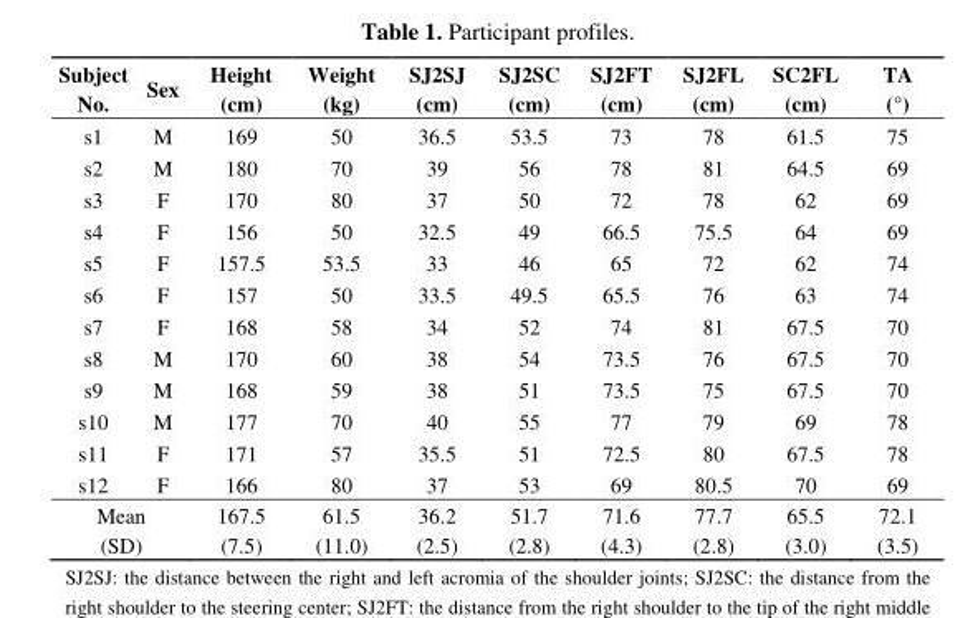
<table><thead><tr><td>Subject No.</td><td>Sex</td><td>Height (cm)</td><td>Weight (kg)</td><td>SJ2SJ (cm)</td><td>SJ2SC (cm)</td><td>SJ2FT (cm)</td><td>SJ2FL (cm)</td><td>SC2FL (cm)</td><td>TA (°)</td></tr></thead><tbody><tr><td>s1</td><td>M</td><td>169</td><td>50</td><td>36.5</td><td>53.5</td><td>73</td><td>78</td><td>61.5</td><td>75</td></tr><tr><td>s2</td><td>M</td><td>180</td><td>70</td><td>39</td><td>56</td><td>78</td><td>81</td><td>64.5</td><td>69</td></tr><tr><td>s3</td><td>F</td><td>170</td><td>80</td><td>37</td><td>50</td><td>72</td><td>78</td><td>62</td><td>69</td></tr><tr><td>s4</td><td>F</td><td>156</td><td>50</td><td>32.5</td><td>49</td><td>66.5</td><td>75.5</td><td>64</td><td>69</td></tr><tr><td>s5</td><td>F</td><td>157.5</td><td>53.5</td><td>33</td><td>46</td><td>65</td><td>72</td><td>62</td><td>74</td></tr><tr><td>s6</td><td>F</td><td>157</td><td>50</td><td>33.5</td><td>49.5</td><td>65.5</td><td>76</td><td>63</td><td>74</td></tr><tr><td>s7</td><td>F</td><td>168</td><td>58</td><td>34</td><td>52</td><td>74</td><td>81</td><td>67.5</td><td>70</td></tr><tr><td>s8</td><td>M</td><td>170</td><td>60</td><td>38</td><td>54</td><td>73.5</td><td>76</td><td>67.5</td><td>70</td></tr><tr><td>s9</td><td>M</td><td>168</td><td>59</td><td>38</td><td>51</td><td>73.5</td><td>75</td><td>67.5</td><td>70</td></tr><tr><td>s10</td><td>M</td><td>177</td><td>70</td><td>40</td><td>55</td><td>77</td><td>79</td><td>69</td><td>78</td></tr><tr><td>s11</td><td>F</td><td>171</td><td>57</td><td>35.5</td><td>51</td><td>72.5</td><td>80</td><td>67.5</td><td>78</td></tr><tr><td>s12</td><td>F</td><td>166</td><td>80</td><td>37</td><td>53</td><td>69</td><td>80.5</td><td>70</td><td>69</td></tr><tr><td colspan="2">Mean (SD)</td><td>167.5 (7.5)</td><td>61.5 (11.0)</td><td>36.2 (2.5)</td><td>51.7 (2.8)</td><td>71.6 (4.3)</td><td>77.7 (2.8)</td><td>65.5 (3.0)</td><td>72.1 (3.5)</td></tr></tbody></table>